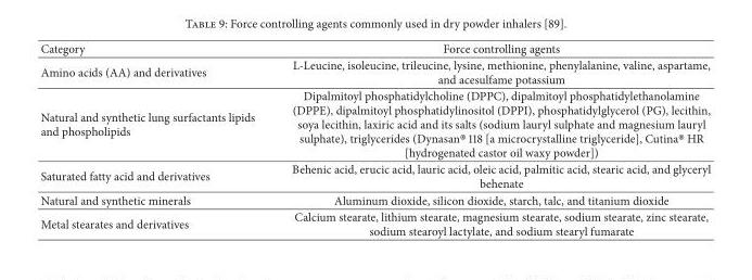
<table><thead><tr><td>Category</td><td>Force controlling agents</td></tr></thead><tbody><tr><td>Amino acids (AA) and derivatives</td><td>L-Leucine, isoleucine, trileucine, lysine, methionine, phenylalanine, valine, aspartame, and acesulfame potassium</td></tr><tr><td>Natural and synthetic lung surfactants lipids and phospholipids</td><td>Dipalmitoyl phosphatidylcholine (DPPC), dipalmitoyl phosphatidylethanolamine (DPPE), dipalmitoyl phosphatidylinositol (DPPI), phosphatidylglycerol (PG), lecithin, soya lecithin, laxiric acid and its salts (sodium lauryl sulphate and magnesium lauryl sulphate), triglycerides (Dynasan® 118 [a microcrystalline triglyceride], Cutina® HR [hydrogenated castor oil waxy powder])</td></tr><tr><td>Saturated fatty acid and derivatives</td><td>Behenic acid, erucic acid, lauric acid, oleic acid, palmitic acid, stearic acid, and glyceryl behenate</td></tr><tr><td>Natural and synthetic minerals</td><td>Aluminum dioxide, silicon dioxide, starch, talc, and titanium dioxide</td></tr><tr><td>Metal stearates and derivatives</td><td>Calcium stearate, lithium stearate, magnesium stearate, sodium stearate, zinc stearate, sodium stearoyl lactylate, and sodium stearyl fumarate</td></tr></tbody></table>